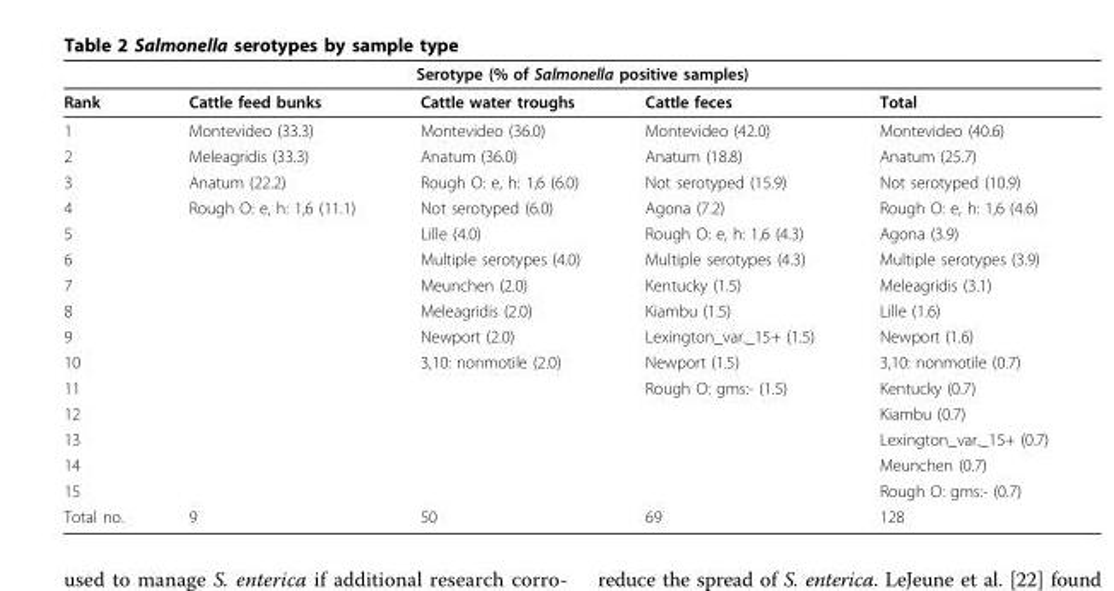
<table><thead><tr><td colspan="5">Serotype (% of Salmonella positive samples)</td></tr><tr><td>Rank</td><td>Cattle feed bunks</td><td>Cattle water troughs</td><td>Cattle feces</td><td>Total</td></tr></thead><tbody><tr><td>1</td><td>Montevideo (33.3)</td><td>Montevideo (36.0)</td><td>Montevideo (42.0)</td><td>Montevideo (40.6)</td></tr><tr><td>2</td><td>Meleagridis (33.3)</td><td>Anatum (36.0)</td><td>Anatum (18.8)</td><td>Anatum (25.7)</td></tr><tr><td>3</td><td>Anatum (22.2)</td><td>Rough O: e, h: 1,6 (6.0)</td><td>Not serotyped (15.9)</td><td>Not serotyped (10.9)</td></tr><tr><td>4</td><td>Rough O: e, h: 1,6 (11.1)</td><td>Not serotyped (6.0)</td><td>Agona (7.2)</td><td>Rough O: e, h: 1,6 (4.6)</td></tr><tr><td>5</td><td></td><td>Lille (4.0)</td><td>Rough O: e, h: 1,6 (4.3)</td><td>Agona (3.9)</td></tr><tr><td>6</td><td></td><td>Multiple serotypes (4.0)</td><td>Multiple serotypes (4.3)</td><td>Multiple serotypes (3.9)</td></tr><tr><td>7</td><td></td><td>Meunchen (2.0)</td><td>Kentucky (1.5)</td><td>Meleagridis (3.1)</td></tr><tr><td>8</td><td></td><td>Meleagridis (2.0)</td><td>Kiambu (1.5)</td><td>Lille (1.6)</td></tr><tr><td>9</td><td></td><td>Newport (2.0)</td><td>Lexington_var._15+ (1.5)</td><td>Newport (1.6)</td></tr><tr><td>10</td><td></td><td>3,10: nonmotile (2.0)</td><td>Newport (1.5)</td><td>3,10: nonmotile (0.7)</td></tr><tr><td>11</td><td></td><td></td><td>Rough O: gms:- (1.5)</td><td>Kentucky (0.7)</td></tr><tr><td>12</td><td></td><td></td><td></td><td>Kiambu (0.7)</td></tr><tr><td>13</td><td></td><td></td><td></td><td>Lexington_var._15+ (0.7)</td></tr><tr><td>14</td><td></td><td></td><td></td><td>Meunchen (0.7)</td></tr><tr><td>15</td><td></td><td></td><td></td><td>Rough O: gms:- (0.7)</td></tr><tr><td>Total no.</td><td>9</td><td>50</td><td>69</td><td>128</td></tr></tbody></table>